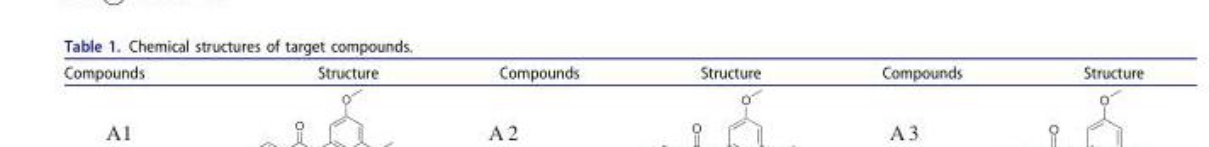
<table><thead><tr><td>Compounds</td><td>Structure</td><td>Compounds</td><td>Structure</td><td>Compounds</td><td>Structure</td></tr></thead><tbody></tbody></table>